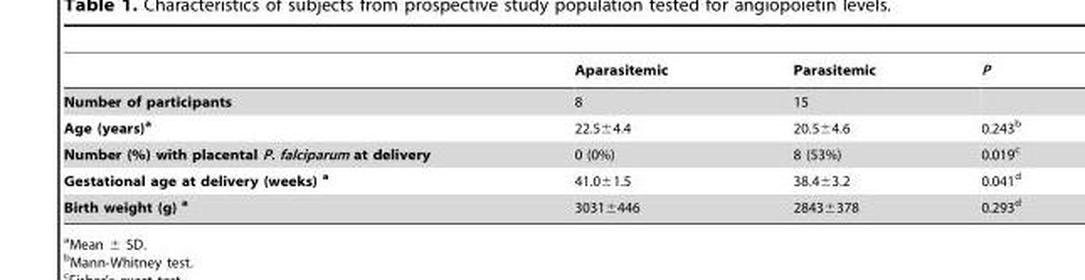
<table><thead><tr><td></td><td>Aparasitemic</td><td>Parasitemic</td><td>P</td></tr></thead><tbody><tr><td>Number of participants</td><td>8</td><td>15</td><td></td></tr><tr><td>Age (years)a</td><td>22.5±4.4</td><td>20.5±4.6</td><td>0.243<sup>b</sup></td></tr><tr><td>Number (%) with placental P. falciparum at delivery</td><td>0 (0%)</td><td>8 (53%)</td><td>0.019<sup>c</sup></td></tr><tr><td>Gestational age at delivery (weeks) a</td><td>41.0±1.5</td><td>38.4±3.2</td><td>0.041<sup>d</sup></td></tr><tr><td>Birth weight (g) a</td><td>3031±446</td><td>2843±378</td><td>0.293<sup>d</sup></td></tr></tbody></table>